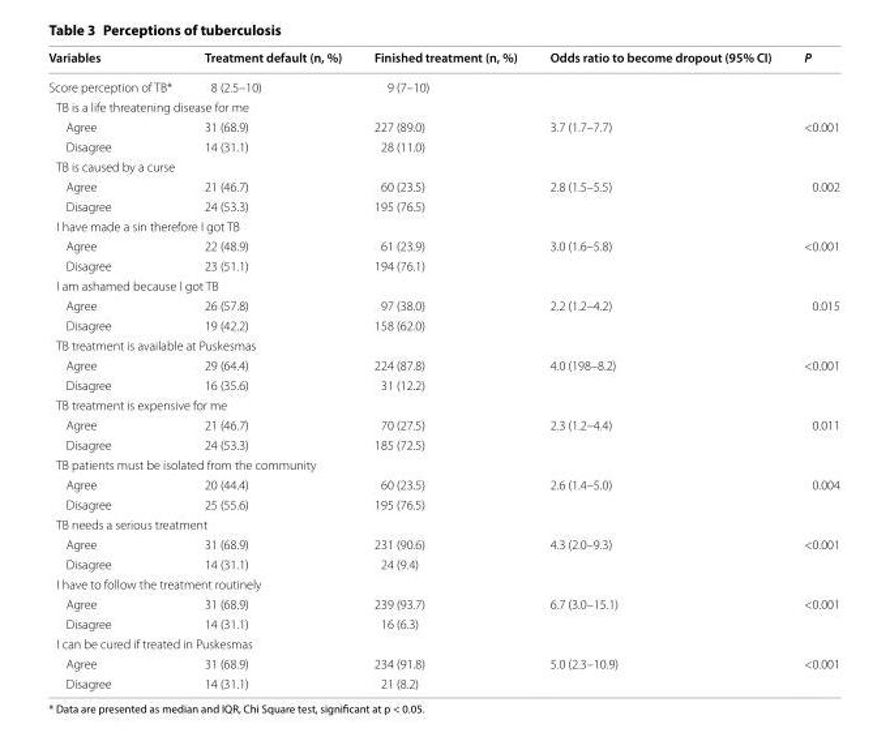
<table><thead><tr><td>Variables</td><td>Treatment default (n, %)</td><td>Finished treatment (n, %)</td><td>Odds ratio to become dropout (95% CI)</td><td>P</td></tr></thead><tbody><tr><td>Score perception of TB*</td><td>8 (2.5–10)</td><td>9 (7–10)</td><td></td><td></td></tr><tr><td colspan="5">TB is a life threatening disease for me</td></tr><tr><td>Agree</td><td>31 (68.9)</td><td>227 (89.0)</td><td>3.7 (1.7–7.7)</td><td>&lt;0.001</td></tr><tr><td>Disagree</td><td>14 (31.1)</td><td>28 (11.0)</td><td></td><td></td></tr><tr><td colspan="5">TB is caused by a curse</td></tr><tr><td>Agree</td><td>21 (46.7)</td><td>60 (23.5)</td><td>2.8 (1.5–5.5)</td><td>0.002</td></tr><tr><td>Disagree</td><td>24 (53.3)</td><td>195 (76.5)</td><td></td><td></td></tr><tr><td colspan="5">I have made a sin therefore I got TB</td></tr><tr><td>Agree</td><td>22 (48.9)</td><td>61 (23.9)</td><td>3.0 (1.6–5.8)</td><td>&lt;0.001</td></tr><tr><td>Disagree</td><td>23 (51.1)</td><td>194 (76.1)</td><td></td><td></td></tr><tr><td colspan="5">I am ashamed because I got TB</td></tr><tr><td>Agree</td><td>26 (57.8)</td><td>97 (38.0)</td><td>2.2 (1.2–4.2)</td><td>0.015</td></tr><tr><td>Disagree</td><td>19 (42.2)</td><td>158 (62.0)</td><td></td><td></td></tr><tr><td colspan="5">TB treatment is available at Puskesmas</td></tr><tr><td>Agree</td><td>29 (64.4)</td><td>224 (87.8)</td><td>4.0 (198–8.2)</td><td>&lt;0.001</td></tr><tr><td>Disagree</td><td>16 (35.6)</td><td>31 (12.2)</td><td></td><td></td></tr><tr><td colspan="5">TB treatment is expensive for me</td></tr><tr><td>Agree</td><td>21 (46.7)</td><td>70 (27.5)</td><td>2.3 (1.2–4.4)</td><td>0.011</td></tr><tr><td>Disagree</td><td>24 (53.3)</td><td>185 (72.5)</td><td></td><td></td></tr><tr><td colspan="5">TB patients must be isolated from the community</td></tr><tr><td>Agree</td><td>20 (44.4)</td><td>60 (23.5)</td><td>2.6 (1.4–5.0)</td><td>0.004</td></tr><tr><td>Disagree</td><td>25 (55.6)</td><td>195 (76.5)</td><td></td><td></td></tr><tr><td colspan="5">TB needs a serious treatment</td></tr><tr><td>Agree</td><td>31 (68.9)</td><td>231 (90.6)</td><td>4.3 (2.0–9.3)</td><td>&lt;0.001</td></tr><tr><td>Disagree</td><td>14 (31.1)</td><td>24 (9.4)</td><td></td><td></td></tr><tr><td colspan="5">I have to follow the treatment routinely</td></tr><tr><td>Agree</td><td>31 (68.9)</td><td>239 (93.7)</td><td>6.7 (3.0–15.1)</td><td>&lt;0.001</td></tr><tr><td>Disagree</td><td>14 (31.1)</td><td>16 (6.3)</td><td></td><td></td></tr><tr><td colspan="5">I can be cured if treated in Puskesmas</td></tr><tr><td>Agree</td><td>31 (68.9)</td><td>234 (91.8)</td><td>5.0 (2.3–10.9)</td><td>&lt;0.001</td></tr><tr><td>Disagree</td><td>14 (31.1)</td><td>21 (8.2)</td><td></td><td></td></tr></tbody></table>